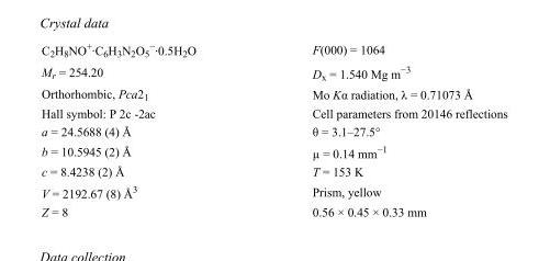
<table><tbody><tr><td>C<sub>2</sub>H<sub>8</sub>NO<sup>+</sup>·C<sub>6</sub>H<sub>3</sub>N<sub>2</sub>O<sub>5</sub> <sup>−</sup>·0.5H<sub>2</sub>O</td><td>F(000) = 1064</td></tr><tr><td>M<sub>r</sub> = 254.20</td><td>D<sub>x</sub> = 1.540 Mg m<sup>−3</sup></td></tr><tr><td>Orthorhombic, Pca2<sub>1</sub></td><td>Mo Kα radiation, λ = 0.71073 Å</td></tr><tr><td>Hall symbol: P 2c -2ac</td><td>Cell parameters from 20146 reflections</td></tr><tr><td>a = 24.5688 (4) Å</td><td>θ = 3.1–27.5°</td></tr><tr><td>b = 10.5945 (2) Å</td><td>µ = 0.14 mm<sup>−1</sup></td></tr><tr><td>c = 8.4238 (2) Å</td><td>T = 153 K</td></tr><tr><td>V = 2192.67 (8) Å<sup>3</sup></td><td>Prism, yellow</td></tr><tr><td>Z = 8</td><td>0.56 × 0.45 × 0.33 mm</td></tr></tbody></table>